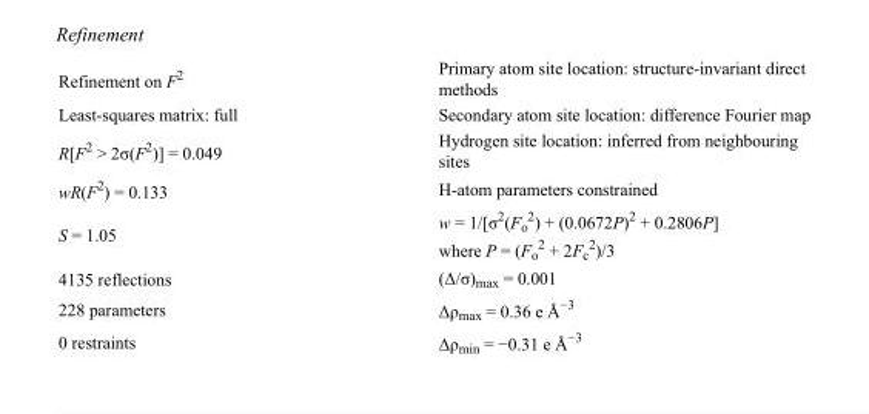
<table><tbody><tr><td>Refinement on F<sup>2</sup></td><td>Primary atom site location: structure-invariant direct methods</td></tr><tr><td>Least-squares matrix: full</td><td>Secondary atom site location: difference Fourier map</td></tr><tr><td>R[F<sup>2</sup> &gt; 2σ(F<sup>2</sup>)] = 0.049</td><td>Hydrogen site location: inferred from neighbouring sites</td></tr><tr><td>wR(F<sup>2</sup>) = 0.133</td><td>H-atom parameters constrained</td></tr><tr><td>S = 1.05</td><td>w = 1/[σ<sup>2</sup>(F<sub>o</sub> <sup>2</sup>) + (0.0672P)<sup>2</sup> + 0.2806P] where P = (F<sub>o</sub> <sup>2</sup> + 2F<sub>c</sub> <sup>2</sup>)/3</td></tr><tr><td>4135 reflections</td><td>(Δ/σ)<sub>max</sub> = 0.001</td></tr><tr><td>228 parameters</td><td>Δρ<sub>max</sub> = 0.36 e Å<sup>−3</sup></td></tr><tr><td>0 restraints</td><td>Δρ<sub>min</sub> = −0.31 e Å<sup>−3</sup></td></tr></tbody></table>